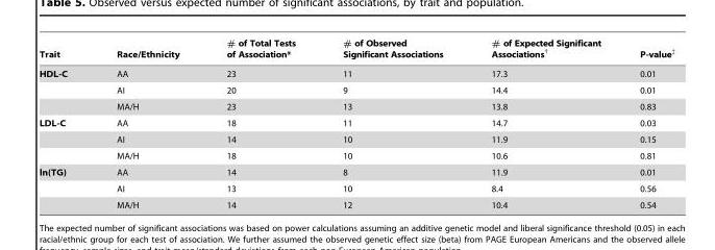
<table><thead><tr><td>Trait</td><td>Race/Ethnicity</td><td># of Total Tests of Association*</td><td># of Observed Significant Associations</td><td># of Expected Significant Associations†</td><td>P-value‡</td></tr></thead><tbody><tr><td rowspan="3">HDL-C</td><td>AA</td><td>23</td><td>11</td><td>17.3</td><td>0.01</td></tr><tr><td>AI</td><td>20</td><td>9</td><td>14.4</td><td>0.01</td></tr><tr><td>MA/H</td><td>23</td><td>13</td><td>13.8</td><td>0.83</td></tr><tr><td rowspan="3">LDL-C</td><td>AA</td><td>18</td><td>11</td><td>14.7</td><td>0.03</td></tr><tr><td>AI</td><td>14</td><td>10</td><td>11.9</td><td>0.15</td></tr><tr><td>MA/H</td><td>18</td><td>10</td><td>10.6</td><td>0.81</td></tr><tr><td rowspan="3">ln(TG)</td><td>AA</td><td>14</td><td>8</td><td>11.9</td><td>0.01</td></tr><tr><td>AI</td><td>13</td><td>10</td><td>8.4</td><td>0.56</td></tr><tr><td>MA/H</td><td>14</td><td>12</td><td>10.4</td><td>0.54</td></tr></tbody></table>